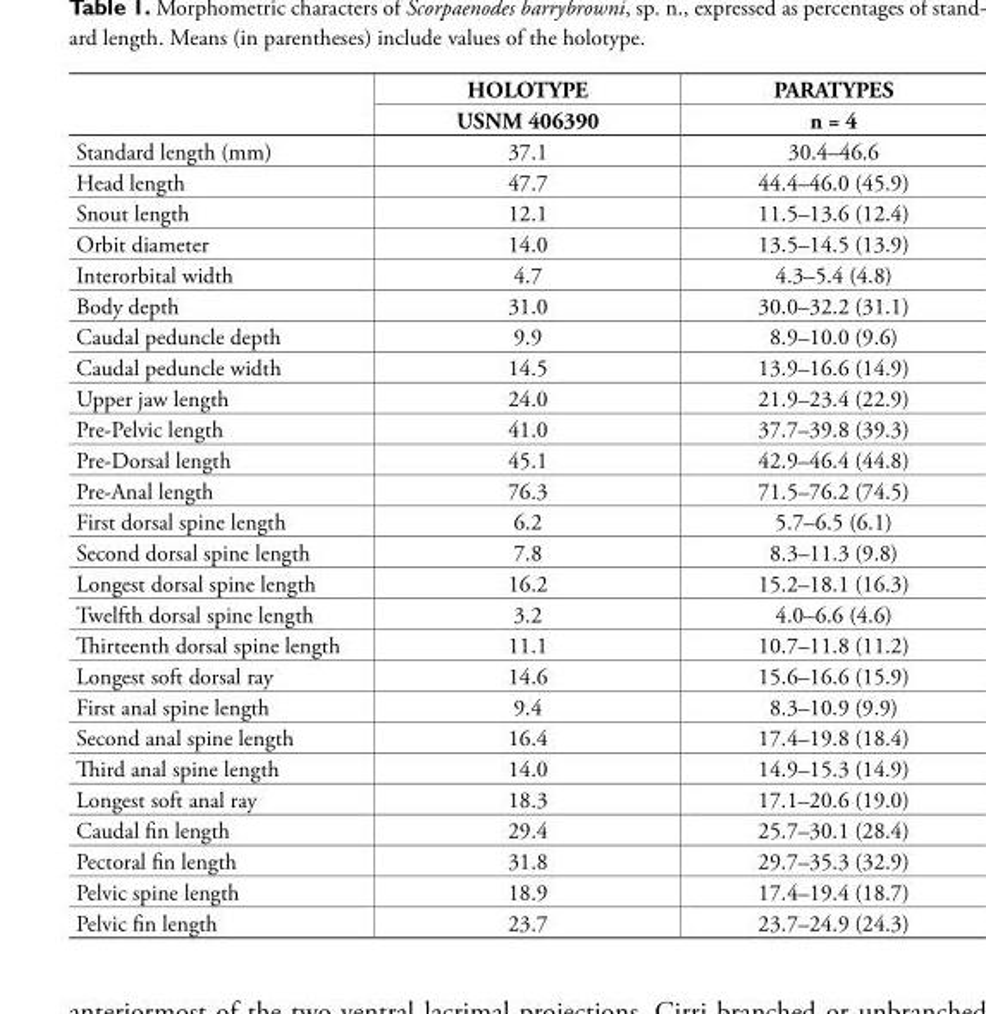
<table><thead><tr><td rowspan="2"></td><td rowspan="2">HOLOTYPE USNM 406390</td><td rowspan="2">PARATYPES n = 4</td></tr><tr></tr></thead><tbody><tr><td>Standard length (mm)</td><td>37.1</td><td>30.4–46.6</td></tr><tr><td>Head length</td><td>47.7</td><td>44.4–46.0 (45.9)</td></tr><tr><td>Snout length</td><td>12.1</td><td>11.5–13.6 (12.4)</td></tr><tr><td>Orbit diameter</td><td>14.0</td><td>13.5–14.5 (13.9)</td></tr><tr><td>Interorbital width</td><td>4.7</td><td>4.3–5.4 (4.8)</td></tr><tr><td>Body depth</td><td>31.0</td><td>30.0–32.2 (31.1)</td></tr><tr><td>Caudal peduncle depth</td><td>9.9</td><td>8.9–10.0 (9.6)</td></tr><tr><td>Caudal peduncle width</td><td>14.5</td><td>13.9–16.6 (14.9)</td></tr><tr><td>Upper jaw length</td><td>24.0</td><td>21.9–23.4 (22.9)</td></tr><tr><td>Pre-Pelvic length</td><td>41.0</td><td>37.7–39.8 (39.3)</td></tr><tr><td>Pre-Dorsal length</td><td>45.1</td><td>42.9–46.4 (44.8)</td></tr><tr><td>Pre-Anal length</td><td>76.3</td><td>71.5–76.2 (74.5)</td></tr><tr><td>First dorsal spine length</td><td>6.2</td><td>5.7–6.5 (6.1)</td></tr><tr><td>Second dorsal spine length</td><td>7.8</td><td>8.3–11.3 (9.8)</td></tr><tr><td>Longest dorsal spine length</td><td>16.2</td><td>15.2–18.1 (16.3)</td></tr><tr><td>Twelfth dorsal spine length</td><td>3.2</td><td>4.0–6.6 (4.6)</td></tr><tr><td>Thirteenth dorsal spine length</td><td>11.1</td><td>10.7–11.8 (11.2)</td></tr><tr><td>Longest soft dorsal ray</td><td>14.6</td><td>15.6–16.6 (15.9)</td></tr><tr><td>First anal spine length</td><td>9.4</td><td>8.3–10.9 (9.9)</td></tr><tr><td>Second anal spine length</td><td>16.4</td><td>17.4–19.8 (18.4)</td></tr><tr><td>Third anal spine length</td><td>14.0</td><td>14.9–15.3 (14.9)</td></tr><tr><td>Longest soft anal ray</td><td>18.3</td><td>17.1–20.6 (19.0)</td></tr><tr><td>Caudal fin length</td><td>29.4</td><td>25.7–30.1 (28.4)</td></tr><tr><td>Pectoral fin length</td><td>31.8</td><td>29.7–35.3 (32.9)</td></tr><tr><td>Pelvic spine length</td><td>18.9</td><td>17.4–19.4 (18.7)</td></tr><tr><td>Pelvic fin length</td><td>23.7</td><td>23.7–24.9 (24.3)</td></tr></tbody></table>